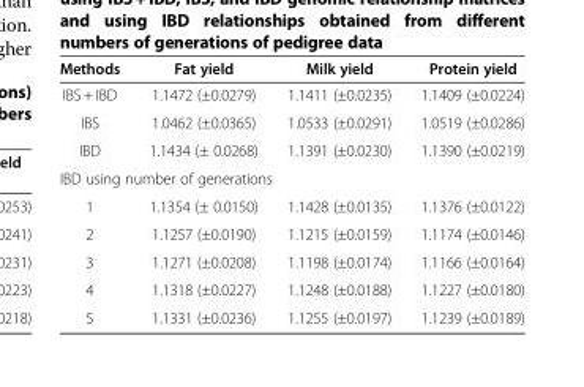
<table><thead><tr><td>Methods</td><td>Fat yield</td><td>Milk yield</td><td>Protein yield</td></tr></thead><tbody><tr><td>IBS + IBD</td><td>1.1472 (±0.0279)</td><td>1.1411 (±0.0235)</td><td>1.1409 (±0.0224)</td></tr><tr><td>IBS</td><td>1.0462 (±0.0365)</td><td>1.0533 (±0.0291)</td><td>1.0519 (±0.0286)</td></tr><tr><td>IBD</td><td>1.1434 (± 0.0268)</td><td>1.1391 (±0.0230)</td><td>1.1390 (±0.0219)</td></tr><tr><td colspan="4">IBD using number of generations</td></tr><tr><td>1</td><td>1.1354 (± 0.0150)</td><td>1.1428 (±0.0135)</td><td>1.1376 (±0.0122)</td></tr><tr><td>2</td><td>1.1257 (±0.0190)</td><td>1.1215 (±0.0159)</td><td>1.1174 (±0.0146)</td></tr><tr><td>3</td><td>1.1271 (±0.0208)</td><td>1.1198 (±0.0174)</td><td>1.1166 (±0.0164)</td></tr><tr><td>4</td><td>1.1318 (±0.0227)</td><td>1.1248 (±0.0188)</td><td>1.1227 (±0.0180)</td></tr><tr><td>5</td><td>1.1331 (±0.0236)</td><td>1.1255 (±0.0197)</td><td>1.1239 (±0.0189)</td></tr></tbody></table>